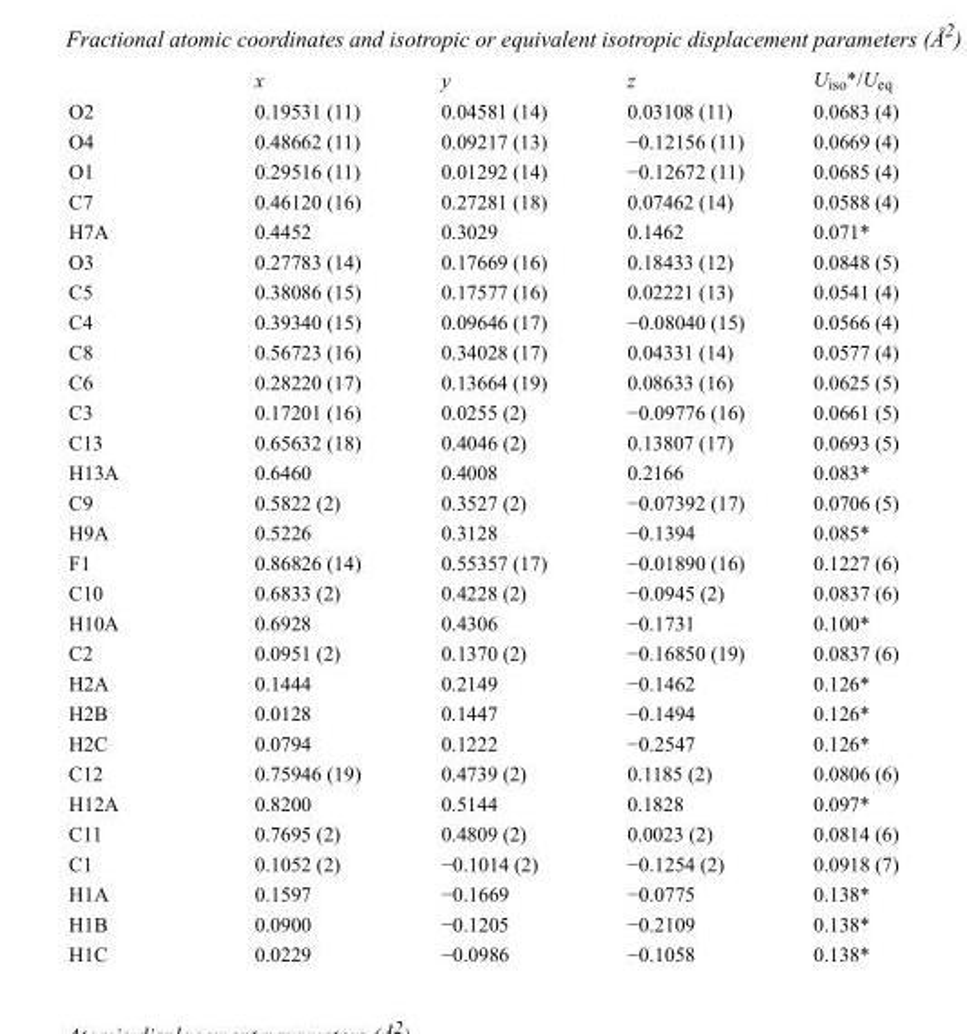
<table><thead><tr><td></td><td>x</td><td>y</td><td>z</td><td>U<sub>iso</sub>*/U<sub>eq</sub></td></tr></thead><tbody><tr><td>O2</td><td>0.19531 (11)</td><td>0.04581 (14)</td><td>0.03108 (11)</td><td>0.0683 (4)</td></tr><tr><td>O4</td><td>0.48662 (11)</td><td>0.09217 (13)</td><td>−0.12156 (11)</td><td>0.0669 (4)</td></tr><tr><td>O1</td><td>0.29516 (11)</td><td>0.01292 (14)</td><td>−0.12672 (11)</td><td>0.0685 (4)</td></tr><tr><td>C7</td><td>0.46120 (16)</td><td>0.27281 (18)</td><td>0.07462 (14)</td><td>0.0588 (4)</td></tr><tr><td>H7A</td><td>0.4452</td><td>0.3029</td><td>0.1462</td><td>0.071*</td></tr><tr><td>O3</td><td>0.27783 (14)</td><td>0.17669 (16)</td><td>0.18433 (12)</td><td>0.0848 (5)</td></tr><tr><td>C5</td><td>0.38086 (15)</td><td>0.17577 (16)</td><td>0.02221 (13)</td><td>0.0541 (4)</td></tr><tr><td>C4</td><td>0.39340 (15)</td><td>0.09646 (17)</td><td>−0.08040 (15)</td><td>0.0566 (4)</td></tr><tr><td>C8</td><td>0.56723 (16)</td><td>0.34028 (17)</td><td>0.04331 (14)</td><td>0.0577 (4)</td></tr><tr><td>C6</td><td>0.28220 (17)</td><td>0.13664 (19)</td><td>0.08633 (16)</td><td>0.0625 (5)</td></tr><tr><td>C3</td><td>0.17201 (16)</td><td>0.0255 (2)</td><td>−0.09776 (16)</td><td>0.0661 (5)</td></tr><tr><td>C13</td><td>0.65632 (18)</td><td>0.4046 (2)</td><td>0.13807 (17)</td><td>0.0693 (5)</td></tr><tr><td>H13A</td><td>0.6460</td><td>0.4008</td><td>0.2166</td><td>0.083*</td></tr><tr><td>C9</td><td>0.5822 (2)</td><td>0.3527 (2)</td><td>−0.07392 (17)</td><td>0.0706 (5)</td></tr><tr><td>H9A</td><td>0.5226</td><td>0.3128</td><td>−0.1394</td><td>0.085*</td></tr><tr><td>F1</td><td>0.86826 (14)</td><td>0.55357 (17)</td><td>−0.01890 (16)</td><td>0.1227 (6)</td></tr><tr><td>C10</td><td>0.6833 (2)</td><td>0.4228 (2)</td><td>−0.0945 (2)</td><td>0.0837 (6)</td></tr><tr><td>H10A</td><td>0.6928</td><td>0.4306</td><td>−0.1731</td><td>0.100*</td></tr><tr><td>C2</td><td>0.0951 (2)</td><td>0.1370 (2)</td><td>−0.16850 (19)</td><td>0.0837 (6)</td></tr><tr><td>H2A</td><td>0.1444</td><td>0.2149</td><td>−0.1462</td><td>0.126*</td></tr><tr><td>H2B</td><td>0.0128</td><td>0.1447</td><td>−0.1494</td><td>0.126*</td></tr><tr><td>H2C</td><td>0.0794</td><td>0.1222</td><td>−0.2547</td><td>0.126*</td></tr><tr><td>C12</td><td>0.75946 (19)</td><td>0.4739 (2)</td><td>0.1185 (2)</td><td>0.0806 (6)</td></tr><tr><td>H12A</td><td>0.8200</td><td>0.5144</td><td>0.1828</td><td>0.097*</td></tr><tr><td>C11</td><td>0.7695 (2)</td><td>0.4809 (2)</td><td>0.0023 (2)</td><td>0.0814 (6)</td></tr><tr><td>C1</td><td>0.1052 (2)</td><td>−0.1014 (2)</td><td>−0.1254 (2)</td><td>0.0918 (7)</td></tr><tr><td>H1A</td><td>0.1597</td><td>−0.1669</td><td>−0.0775</td><td>0.138*</td></tr><tr><td>H1B</td><td>0.0900</td><td>−0.1205</td><td>−0.2109</td><td>0.138*</td></tr><tr><td>H1C</td><td>0.0229</td><td>−0.0986</td><td>−0.1058</td><td>0.138*</td></tr></tbody></table>